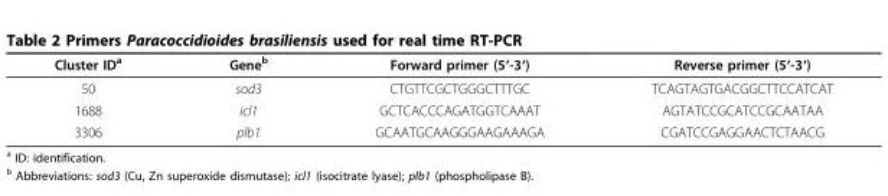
<table><thead><tr><td>Cluster ID<sup>a</sup></td><td>Gene<sup>b</sup></td><td>Forward primer (5′-3′)</td><td>Reverse primer (5′-3′)</td></tr></thead><tbody><tr><td>50</td><td>sod3</td><td>CTGTTCGCTGGGCTTTGC</td><td>TCAGTAGTGACGGCTTCCATCAT</td></tr><tr><td>1688</td><td>icl1</td><td>GCTCACCCAGATGGTCAAAT</td><td>AGTATCCGCATCCGCAATAA</td></tr><tr><td>3306</td><td>plb1</td><td>GCAATGCAAGGGAAGAAAGA</td><td>CGATCCGAGGAACTCTAACG</td></tr></tbody></table>